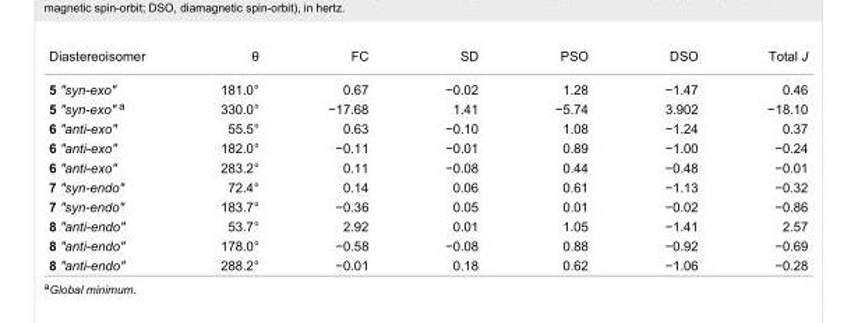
<table><tbody><tr><td>Diastereoisomer</td><td>θ</td><td>FC</td><td>SD</td><td>PSO</td><td>DSO</td><td>Total J</td></tr><tr><td>5 &quot;syn-exo&quot;</td><td>181.0°</td><td>0.67</td><td>−0.02</td><td>1.28</td><td>−1.47</td><td>0.46</td></tr><tr><td>5 &quot;syn-exo&quot; a</td><td>330.0°</td><td>−17.68</td><td>1.41</td><td>−5.74</td><td>3.902</td><td>−18.10</td></tr><tr><td>6 &quot;anti-exo&quot;</td><td>55.5°</td><td>0.63</td><td>−0.10</td><td>1.08</td><td>−1.24</td><td>0.37</td></tr><tr><td>6 &quot;anti-exo&quot;</td><td>182.0°</td><td>−0.11</td><td>−0.01</td><td>0.89</td><td>−1.00</td><td>−0.24</td></tr><tr><td>6 &quot;anti-exo&quot;</td><td>283.2°</td><td>0.11</td><td>−0.08</td><td>0.44</td><td>−0.48</td><td>−0.01</td></tr><tr><td>7 &quot;syn-endo&quot;</td><td>72.4°</td><td>0.14</td><td>0.06</td><td>0.61</td><td>−1.13</td><td>−0.32</td></tr><tr><td>7 &quot;syn-endo&quot;</td><td>183.7°</td><td>−0.36</td><td>0.05</td><td>0.01</td><td>−0.02</td><td>−0.86</td></tr><tr><td>8 &quot;anti-endo&quot;</td><td>53.7°</td><td>2.92</td><td>0.01</td><td>1.05</td><td>−1.41</td><td>2.57</td></tr><tr><td>8 &quot;anti-endo&quot;</td><td>178.0°</td><td>−0.58</td><td>−0.08</td><td>0.88</td><td>−0.92</td><td>−0.69</td></tr><tr><td>8 &quot;anti-endo&quot;</td><td>288.2°</td><td>−0.01</td><td>0.18</td><td>0.62</td><td>−1.06</td><td>−0.28</td></tr></tbody></table>